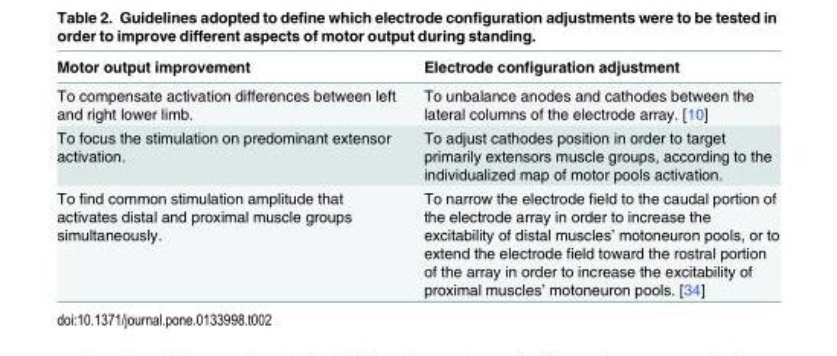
<table><thead><tr><td>Motor output improvement</td><td>Electrode configuration adjustment</td></tr></thead><tbody><tr><td>To compensate activation differences between left and right lower limb.</td><td>To unbalance anodes and cathodes between the lateral columns of the electrode array. [10]</td></tr><tr><td>To focus the stimulation on predominant extensor activation.</td><td>To adjust cathodes position in order to target primarily extensors muscle groups, according to the individualized map of motor pools activation.</td></tr><tr><td>To find common stimulation amplitude that activates distal and proximal muscle groups simultaneously.</td><td>To narrow the electrode field to the caudal portion of the electrode array in order to increase the excitability of distal muscles’ motoneuron pools, or to extend the electrode field toward the rostral portion of the array in order to increase the excitability of proximal muscles’ motoneuron pools. [34]</td></tr></tbody></table>